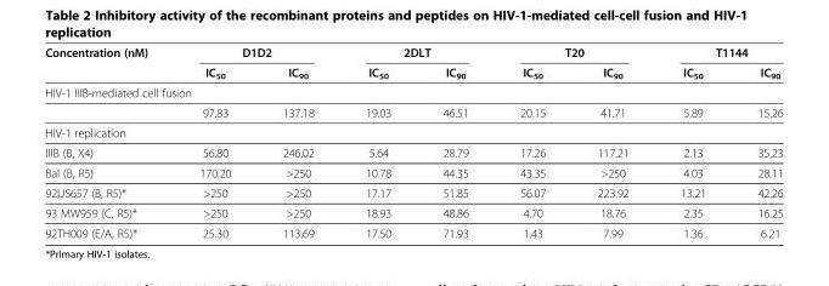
<table><thead><tr><td rowspan="2">Concentration (nM)</td><td colspan="2">D1D2</td><td colspan="2">2DLT</td><td colspan="2">T20</td><td colspan="2">T1144</td></tr><tr><td>IC<sub>50</sub></td><td>IC<sub>90</sub></td><td>IC<sub>50</sub></td><td>IC<sub>90</sub></td><td>IC<sub>50</sub></td><td>IC<sub>90</sub></td><td>IC<sub>50</sub></td><td>IC<sub>90</sub></td></tr></thead><tbody><tr><td colspan="9">HIV-1 IIIB-mediated cell fusion</td></tr><tr><td></td><td>97.83</td><td>137.18</td><td>19.03</td><td>46.51</td><td>20.15</td><td>41.71</td><td>5.89</td><td>15.26</td></tr><tr><td colspan="9">HIV-1 replication</td></tr><tr><td>IIIB (B, X4)</td><td>56.80</td><td>246.02</td><td>5.64</td><td>28.79</td><td>17.26</td><td>117.21</td><td>2.13</td><td>35.23</td></tr><tr><td>Bal (B, R5)</td><td>170.20</td><td>&gt;250</td><td>10.78</td><td>44.35</td><td>43.35</td><td>&gt;250</td><td>4.03</td><td>28.11</td></tr><tr><td>92US657 (B, R5)*</td><td>&gt;250</td><td>&gt;250</td><td>17.17</td><td>51.85</td><td>56.07</td><td>223.92</td><td>13.21</td><td>42.26</td></tr><tr><td>93 MW959 (C, R5)*</td><td>&gt;250</td><td>&gt;250</td><td>18.93</td><td>48.86</td><td>4.70</td><td>18.76</td><td>2.35</td><td>16.25</td></tr><tr><td>92TH009 (E/A, R5)*</td><td>25.30</td><td>113.69</td><td>17.50</td><td>71.93</td><td>1.43</td><td>7.99</td><td>1.36</td><td>6.21</td></tr></tbody></table>